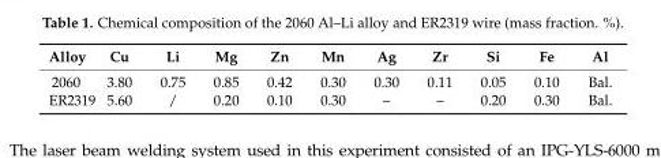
<table><thead><tr><td>Alloy</td><td>Cu</td><td>Li</td><td>Mg</td><td>Zn</td><td>Mn</td><td>Ag</td><td>Zr</td><td>Si</td><td>Fe</td><td>Al</td></tr></thead><tbody><tr><td>2060</td><td>3.80</td><td>0.75</td><td>0.85</td><td>0.42</td><td>0.30</td><td>0.30</td><td>0.11</td><td>0.05</td><td>0.10</td><td>Bal.</td></tr><tr><td>ER2319</td><td>5.60</td><td>/</td><td>0.20</td><td>0.10</td><td>0.30</td><td>–</td><td>–</td><td>0.20</td><td>0.30</td><td>Bal.</td></tr></tbody></table>